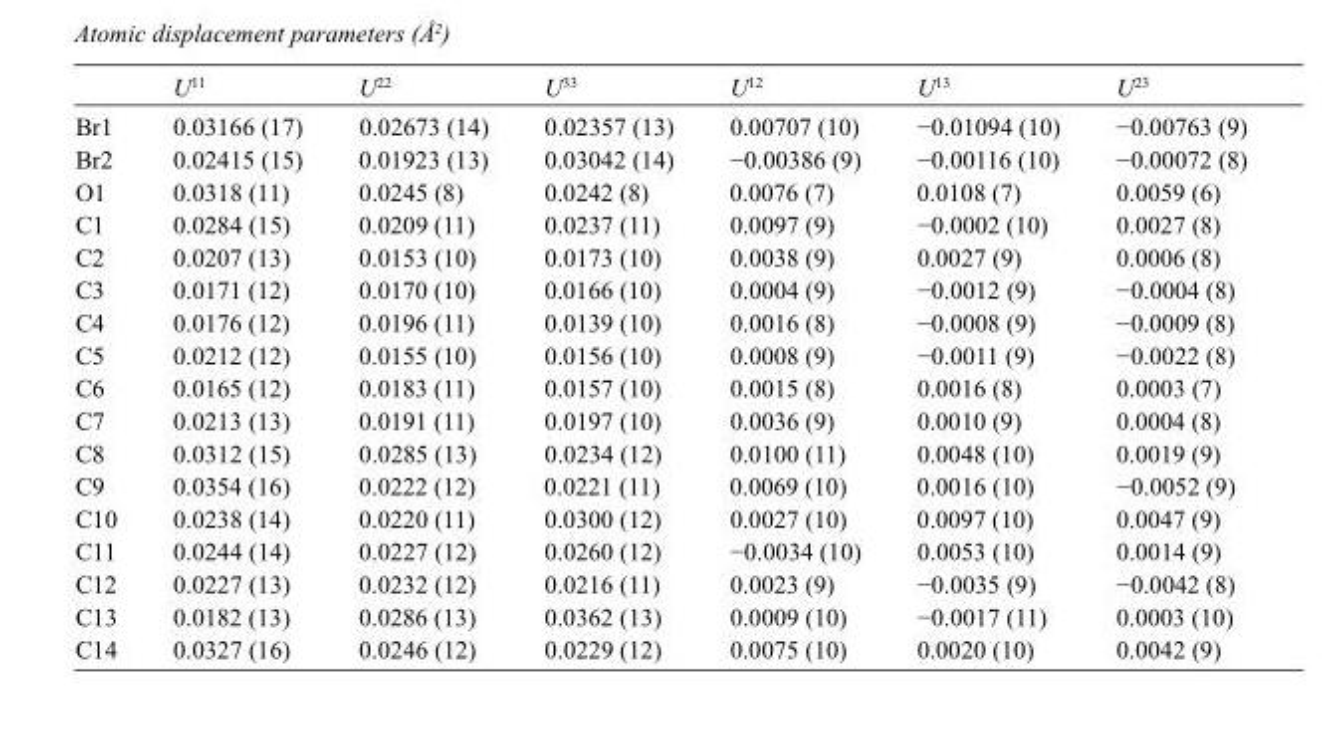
<table><thead><tr><td></td><td>U<sup>11</sup></td><td>U<sup>22</sup></td><td>U<sup>33</sup></td><td>U<sup>12</sup></td><td>U<sup>13</sup></td><td>U<sup>23</sup></td></tr></thead><tbody><tr><td>Br1</td><td>0.03166 (17)</td><td>0.02673 (14)</td><td>0.02357 (13)</td><td>0.00707 (10)</td><td>−0.01094 (10)</td><td>−0.00763 (9)</td></tr><tr><td>Br2</td><td>0.02415 (15)</td><td>0.01923 (13)</td><td>0.03042 (14)</td><td>−0.00386 (9)</td><td>−0.00116 (10)</td><td>−0.00072 (8)</td></tr><tr><td>O1</td><td>0.0318 (11)</td><td>0.0245 (8)</td><td>0.0242 (8)</td><td>0.0076 (7)</td><td>0.0108 (7)</td><td>0.0059 (6)</td></tr><tr><td>C1</td><td>0.0284 (15)</td><td>0.0209 (11)</td><td>0.0237 (11)</td><td>0.0097 (9)</td><td>−0.0002 (10)</td><td>0.0027 (8)</td></tr><tr><td>C2</td><td>0.0207 (13)</td><td>0.0153 (10)</td><td>0.0173 (10)</td><td>0.0038 (9)</td><td>0.0027 (9)</td><td>0.0006 (8)</td></tr><tr><td>C3</td><td>0.0171 (12)</td><td>0.0170 (10)</td><td>0.0166 (10)</td><td>0.0004 (9)</td><td>−0.0012 (9)</td><td>−0.0004 (8)</td></tr><tr><td>C4</td><td>0.0176 (12)</td><td>0.0196 (11)</td><td>0.0139 (10)</td><td>0.0016 (8)</td><td>−0.0008 (9)</td><td>−0.0009 (8)</td></tr><tr><td>C5</td><td>0.0212 (12)</td><td>0.0155 (10)</td><td>0.0156 (10)</td><td>0.0008 (9)</td><td>−0.0011 (9)</td><td>−0.0022 (8)</td></tr><tr><td>C6</td><td>0.0165 (12)</td><td>0.0183 (11)</td><td>0.0157 (10)</td><td>0.0015 (8)</td><td>0.0016 (8)</td><td>0.0003 (7)</td></tr><tr><td>C7</td><td>0.0213 (13)</td><td>0.0191 (11)</td><td>0.0197 (10)</td><td>0.0036 (9)</td><td>0.0010 (9)</td><td>0.0004 (8)</td></tr><tr><td>C8</td><td>0.0312 (15)</td><td>0.0285 (13)</td><td>0.0234 (12)</td><td>0.0100 (11)</td><td>0.0048 (10)</td><td>0.0019 (9)</td></tr><tr><td>C9</td><td>0.0354 (16)</td><td>0.0222 (12)</td><td>0.0221 (11)</td><td>0.0069 (10)</td><td>0.0016 (10)</td><td>−0.0052 (9)</td></tr><tr><td>C10</td><td>0.0238 (14)</td><td>0.0220 (11)</td><td>0.0300 (12)</td><td>0.0027 (10)</td><td>0.0097 (10)</td><td>0.0047 (9)</td></tr><tr><td>C11</td><td>0.0244 (14)</td><td>0.0227 (12)</td><td>0.0260 (12)</td><td>−0.0034 (10)</td><td>0.0053 (10)</td><td>0.0014 (9)</td></tr><tr><td>C12</td><td>0.0227 (13)</td><td>0.0232 (12)</td><td>0.0216 (11)</td><td>0.0023 (9)</td><td>−0.0035 (9)</td><td>−0.0042 (8)</td></tr><tr><td>C13</td><td>0.0182 (13)</td><td>0.0286 (13)</td><td>0.0362 (13)</td><td>0.0009 (10)</td><td>−0.0017 (11)</td><td>0.0003 (10)</td></tr><tr><td>C14</td><td>0.0327 (16)</td><td>0.0246 (12)</td><td>0.0229 (12)</td><td>0.0075 (10)</td><td>0.0020 (10)</td><td>0.0042 (9)</td></tr></tbody></table>